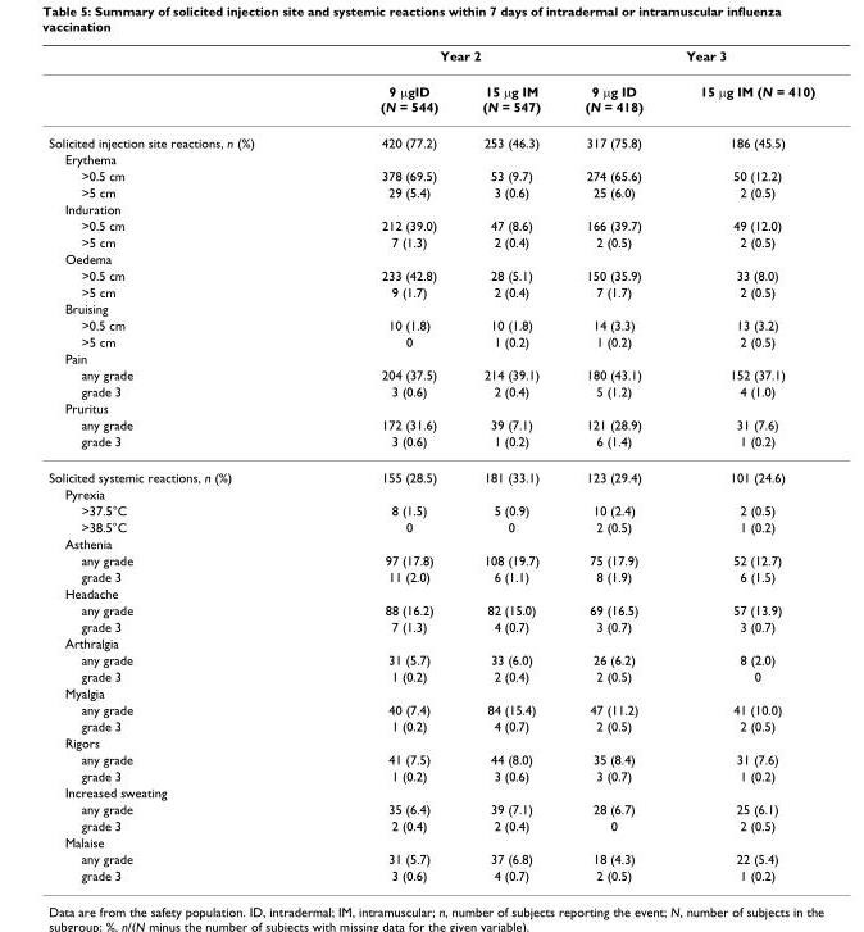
<table><thead><tr><td rowspan="2"></td><td colspan="2">Year 2</td><td colspan="2">Year 3</td></tr><tr><td>9 μgID (N = 544)</td><td>15 μg IM (N = 547)</td><td>9 μg ID (N = 418)</td><td>15 μg IM (N = 410)</td></tr></thead><tbody><tr><td>Solicited injection site reactions, n (%)</td><td>420 (77.2)</td><td>253 (46.3)</td><td>317 (75.8)</td><td>186 (45.5)</td></tr><tr><td colspan="5">Erythema</td></tr><tr><td>&gt;0.5 cm</td><td>378 (69.5)</td><td>53 (9.7)</td><td>274 (65.6)</td><td>50 (12.2)</td></tr><tr><td>&gt;5 cm</td><td>29 (5.4)</td><td>3 (0.6)</td><td>25 (6.0)</td><td>2 (0.5)</td></tr><tr><td colspan="5">Induration</td></tr><tr><td>&gt;0.5 cm</td><td>212 (39.0)</td><td>47 (8.6)</td><td>166 (39.7)</td><td>49 (12.0)</td></tr><tr><td>&gt;5 cm</td><td>7 (1.3)</td><td>2 (0.4)</td><td>2 (0.5)</td><td>2 (0.5)</td></tr><tr><td colspan="5">Oedema</td></tr><tr><td>&gt;0.5 cm</td><td>233 (42.8)</td><td>28 (5.1)</td><td>150 (35.9)</td><td>33 (8.0)</td></tr><tr><td>&gt;5 cm</td><td>9 (1.7)</td><td>2 (0.4)</td><td>7 (1.7)</td><td>2 (0.5)</td></tr><tr><td colspan="5">Bruising</td></tr><tr><td>&gt;0.5 cm</td><td>10 (1.8)</td><td>10 (1.8)</td><td>14 (3.3)</td><td>13 (3.2)</td></tr><tr><td>&gt;5 cm</td><td>0</td><td>1 (0.2)</td><td>1 (0.2)</td><td>2 (0.5)</td></tr><tr><td colspan="5">Pain</td></tr><tr><td>any grade</td><td>204 (37.5)</td><td>214 (39.1)</td><td>180 (43.1)</td><td>152 (37.1)</td></tr><tr><td>grade 3</td><td>3 (0.6)</td><td>2 (0.4)</td><td>5 (1.2)</td><td>4 (1.0)</td></tr><tr><td colspan="5">Pruritus</td></tr><tr><td>any grade</td><td>172 (31.6)</td><td>39 (7.1)</td><td>121 (28.9)</td><td>31 (7.6)</td></tr><tr><td>grade 3</td><td>3 (0.6)</td><td>1 (0.2)</td><td>6 (1.4)</td><td>1 (0.2)</td></tr><tr><td>Solicited systemic reactions, n (%)</td><td>155 (28.5)</td><td>181 (33.1)</td><td>123 (29.4)</td><td>101 (24.6)</td></tr><tr><td colspan="5">Pyrexia</td></tr><tr><td>&gt;37.5°C</td><td>8 (1.5)</td><td>5 (0.9)</td><td>10 (2.4)</td><td>2 (0.5)</td></tr><tr><td>&gt;38.5°C</td><td>0</td><td>0</td><td>2 (0.5)</td><td>1 (0.2)</td></tr><tr><td colspan="5">Asthenia</td></tr><tr><td>any grade</td><td>97 (17.8)</td><td>108 (19.7)</td><td>75 (17.9)</td><td>52 (12.7)</td></tr><tr><td>grade 3</td><td>11 (2.0)</td><td>6 (1.1)</td><td>8 (1.9)</td><td>6 (1.5)</td></tr><tr><td colspan="5">Headache</td></tr><tr><td>any grade</td><td>88 (16.2)</td><td>82 (15.0)</td><td>69 (16.5)</td><td>57 (13.9)</td></tr><tr><td>grade 3</td><td>7 (1.3)</td><td>4 (0.7)</td><td>3 (0.7)</td><td>3 (0.7)</td></tr><tr><td colspan="5">Arthralgia</td></tr><tr><td>any grade</td><td>31 (5.7)</td><td>33 (6.0)</td><td>26 (6.2)</td><td>8 (2.0)</td></tr><tr><td>grade 3</td><td>1 (0.2)</td><td>2 (0.4)</td><td>2 (0.5)</td><td>0</td></tr><tr><td colspan="5">Myalgia</td></tr><tr><td>any grade</td><td>40 (7.4)</td><td>84 (15.4)</td><td>47 (11.2)</td><td>41 (10.0)</td></tr><tr><td>grade 3</td><td>1 (0.2)</td><td>4 (0.7)</td><td>2 (0.5)</td><td>2 (0.5)</td></tr><tr><td colspan="5">Rigors</td></tr><tr><td>any grade</td><td>41 (7.5)</td><td>44 (8.0)</td><td>35 (8.4)</td><td>31 (7.6)</td></tr><tr><td>grade 3</td><td>1 (0.2)</td><td>3 (0.6)</td><td>3 (0.7)</td><td>1 (0.2)</td></tr><tr><td colspan="5">Increased sweating</td></tr><tr><td>any grade</td><td>35 (6.4)</td><td>39 (7.1)</td><td>28 (6.7)</td><td>25 (6.1)</td></tr><tr><td>grade 3</td><td>2 (0.4)</td><td>2 (0.4)</td><td>0</td><td>2 (0.5)</td></tr><tr><td colspan="5">Malaise</td></tr><tr><td>any grade</td><td>31 (5.7)</td><td>37 (6.8)</td><td>18 (4.3)</td><td>22 (5.4)</td></tr><tr><td>grade 3</td><td>3 (0.6)</td><td>4 (0.7)</td><td>2 (0.5)</td><td>1 (0.2)</td></tr></tbody></table>